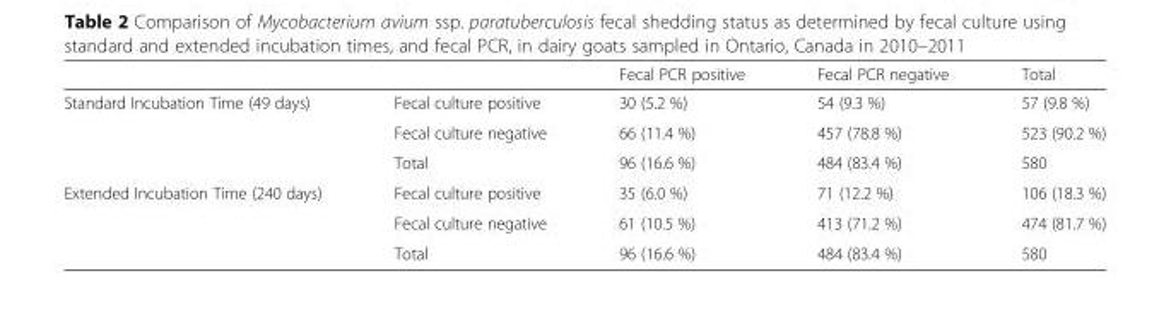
<table><thead><tr><td></td><td></td><td>Fecal PCR positive</td><td>Fecal PCR negative</td><td>Total</td></tr></thead><tbody><tr><td rowspan="3">Standard Incubation Time (49 days)</td><td>Fecal culture positive</td><td>30 (5.2 %)</td><td>54 (9.3 %)</td><td>57 (9.8 %)</td></tr><tr><td>Fecal culture negative</td><td>66 (11.4 %)</td><td>457 (78.8 %)</td><td>523 (90.2 %)</td></tr><tr><td>Total</td><td>96 (16.6 %)</td><td>484 (83.4 %)</td><td>580</td></tr><tr><td rowspan="3">Extended Incubation Time (240 days)</td><td>Fecal culture positive</td><td>35 (6.0 %)</td><td>71 (12.2 %)</td><td>106 (18.3 %)</td></tr><tr><td>Fecal culture negative</td><td>61 (10.5 %)</td><td>413 (71.2 %)</td><td>474 (81.7 %)</td></tr><tr><td>Total</td><td>96 (16.6 %)</td><td>484 (83.4 %)</td><td>580</td></tr></tbody></table>